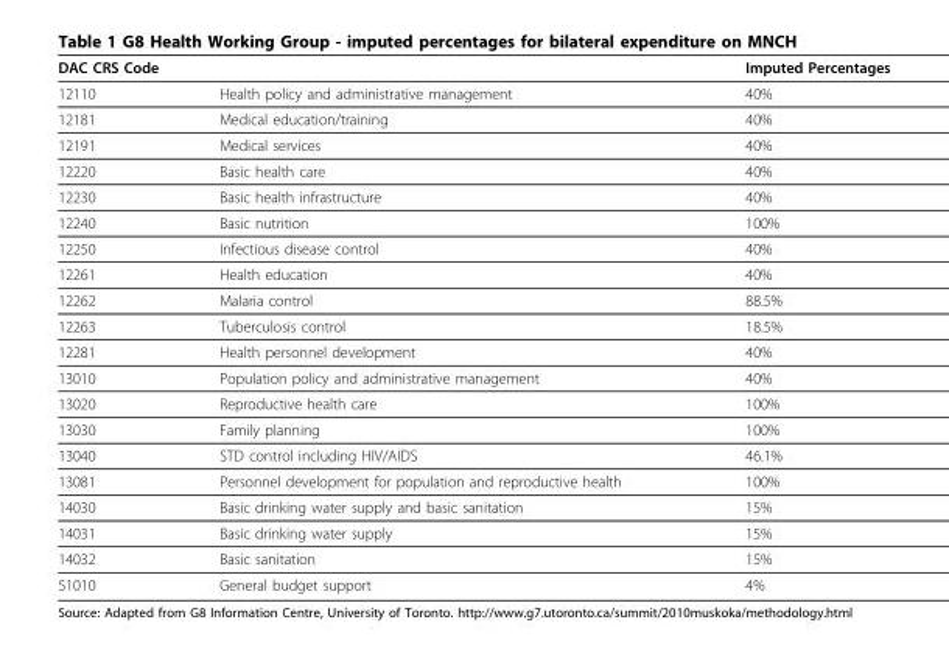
<table><thead><tr><td colspan="2">DAC CRS Code</td><td rowspan="2">Imputed Percentages 40%</td></tr><tr><td>12110</td><td>Health policy and administrative management</td></tr></thead><tbody><tr><td>12181</td><td>Medical education/training</td><td>40%</td></tr><tr><td>12191</td><td>Medical services</td><td>40%</td></tr><tr><td>12220</td><td>Basic health care</td><td>40%</td></tr><tr><td>12230</td><td>Basic health infrastructure</td><td>40%</td></tr><tr><td>12240</td><td>Basic nutrition</td><td>100%</td></tr><tr><td>12250</td><td>Infectious disease control</td><td>40%</td></tr><tr><td>12261</td><td>Health education</td><td>40%</td></tr><tr><td>12262</td><td>Malaria control</td><td>88.5%</td></tr><tr><td>12263</td><td>Tuberculosis control</td><td>18.5%</td></tr><tr><td>12281</td><td>Health personnel development</td><td>40%</td></tr><tr><td>13010</td><td>Population policy and administrative management</td><td>40%</td></tr><tr><td>13020</td><td>Reproductive health care</td><td>100%</td></tr><tr><td>13030</td><td>Family planning</td><td>100%</td></tr><tr><td>13040</td><td>STD control including HIV/AIDS</td><td>46.1%</td></tr><tr><td>13081</td><td>Personnel development for population and reproductive health</td><td>100%</td></tr><tr><td>14030</td><td>Basic drinking water supply and basic sanitation</td><td>15%</td></tr><tr><td>14031</td><td>Basic drinking water supply</td><td>15%</td></tr><tr><td>14032</td><td>Basic sanitation</td><td>15%</td></tr><tr><td>51010</td><td>General budget support</td><td>4%</td></tr></tbody></table>